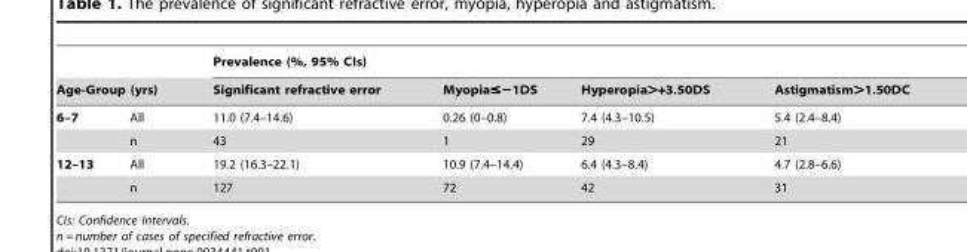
<table><thead><tr><td></td><td></td><td colspan="4">Prevalence (%, 95% CIs)</td></tr><tr><td colspan="2">Age-Group (yrs)</td><td>Significant refractive error</td><td>Myopia≤−1DS</td><td>Hyperopia&gt;+3.50DS</td><td>Astigmatism&gt;1.50DC</td></tr></thead><tbody><tr><td rowspan="2">6–7</td><td>All</td><td>11.0 (7.4–14.6)</td><td>0.26 (0–0.8)</td><td>7.4 (4.3–10.5)</td><td>5.4 (2.4–8.4)</td></tr><tr><td>n</td><td>43</td><td>1</td><td>29</td><td>21</td></tr><tr><td rowspan="2">12–13</td><td>All</td><td>19.2 (16.3–22.1)</td><td>10.9 (7.4–14.4)</td><td>6.4 (4.3–8.4)</td><td>4.7 (2.8–6.6)</td></tr><tr><td>n</td><td>127</td><td>72</td><td>42</td><td>31</td></tr></tbody></table>